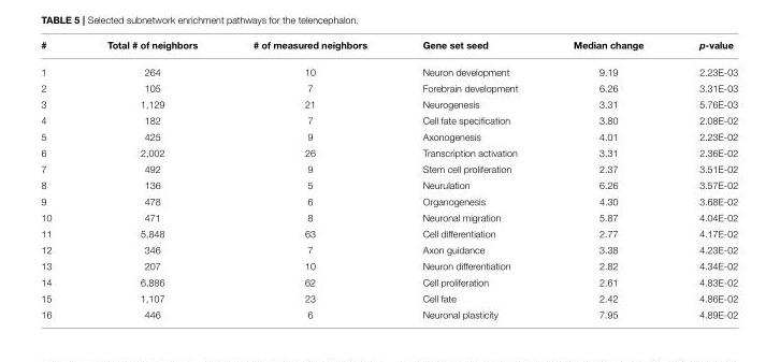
<table><thead><tr><td>#</td><td>Total # of neighbors</td><td># of measured neighbors</td><td>Gene set seed</td><td>Median change</td><td>p-value</td></tr></thead><tbody><tr><td>1</td><td>264</td><td>10</td><td>Neuron development</td><td>9.19</td><td>2.23E-03</td></tr><tr><td>2</td><td>105</td><td>7</td><td>Forebrain development</td><td>6.26</td><td>3.31E-03</td></tr><tr><td>3</td><td>1,129</td><td>21</td><td>Neurogenesis</td><td>3.31</td><td>5.76E-03</td></tr><tr><td>4</td><td>182</td><td>7</td><td>Cell fate specification</td><td>3.80</td><td>2.08E-02</td></tr><tr><td>5</td><td>425</td><td>9</td><td>Axonogenesis</td><td>4.01</td><td>2.23E-02</td></tr><tr><td>6</td><td>2,002</td><td>26</td><td>Transcription activation</td><td>3.31</td><td>2.36E-02</td></tr><tr><td>7</td><td>492</td><td>9</td><td>Stem cell proliferation</td><td>2.37</td><td>3.51E-02</td></tr><tr><td>8</td><td>136</td><td>5</td><td>Neurulation</td><td>6.26</td><td>3.57E-02</td></tr><tr><td>9</td><td>478</td><td>6</td><td>Organogenesis</td><td>4.30</td><td>3.68E-02</td></tr><tr><td>10</td><td>471</td><td>8</td><td>Neuronal migration</td><td>5.87</td><td>4.04E-02</td></tr><tr><td>11</td><td>5,848</td><td>63</td><td>Cell differentiation</td><td>2.77</td><td>4.17E-02</td></tr><tr><td>12</td><td>346</td><td>7</td><td>Axon guidance</td><td>3.38</td><td>4.23E-02</td></tr><tr><td>13</td><td>207</td><td>10</td><td>Neuron differentiation</td><td>2.82</td><td>4.34E-02</td></tr><tr><td>14</td><td>6,886</td><td>62</td><td>Cell proliferation</td><td>2.61</td><td>4.83E-02</td></tr><tr><td>15</td><td>1,107</td><td>23</td><td>Cell fate</td><td>2.42</td><td>4.86E-02</td></tr><tr><td>16</td><td>446</td><td>6</td><td>Neuronal plasticity</td><td>7.95</td><td>4.89E-02</td></tr></tbody></table>